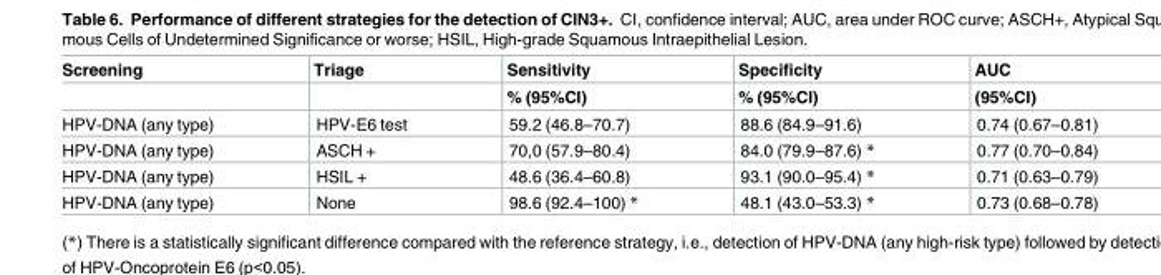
<table><thead><tr><td rowspan="2">Screening</td><td rowspan="2">Triage</td><td rowspan="2">Sensitivity % (95%CI)</td><td rowspan="2">Specificity % (95%CI)</td><td rowspan="2">AUC (95%CI)</td></tr><tr></tr></thead><tbody><tr><td>HPV-DNA (any type)</td><td>HPV-E6 test</td><td>59.2 (46.8–70.7)</td><td>88.6 (84.9–91.6)</td><td>0.74 (0.67–0.81)</td></tr><tr><td>HPV-DNA (any type)</td><td>ASCH +</td><td>70,0 (57.9–80.4)</td><td>84.0 (79.9–87.6) *</td><td>0.77 (0.70–0.84)</td></tr><tr><td>HPV-DNA (any type)</td><td>HSIL +</td><td>48.6 (36.4–60.8)</td><td>93.1 (90.0–95.4) *</td><td>0.71 (0.63–0.79)</td></tr><tr><td>HPV-DNA (any type)</td><td>None</td><td>98.6 (92.4–100) *</td><td>48.1 (43.0–53.3) *</td><td>0.73 (0.68–0.78)</td></tr></tbody></table>